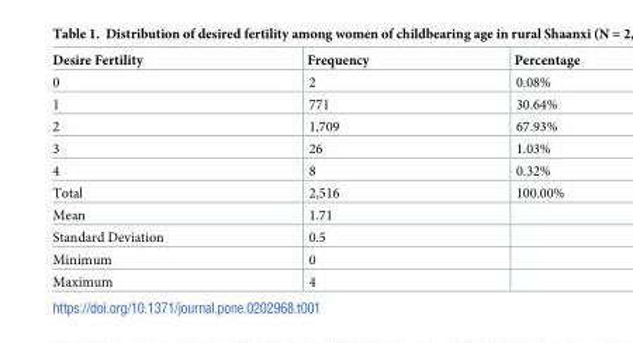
<table><thead><tr><td>Desire Fertility</td><td>Frequency</td><td>Percentage</td></tr></thead><tbody><tr><td>0</td><td>2</td><td>0.08%</td></tr><tr><td>1</td><td>771</td><td>30.64%</td></tr><tr><td>2</td><td>1,709</td><td>67.93%</td></tr><tr><td>3</td><td>26</td><td>1.03%</td></tr><tr><td>4</td><td>8</td><td>0.32%</td></tr><tr><td>Total</td><td>2,516</td><td>100.00%</td></tr><tr><td>Mean</td><td>1.71</td><td></td></tr><tr><td>Standard Deviation</td><td>0.5</td><td></td></tr><tr><td>Minimum</td><td>0</td><td></td></tr><tr><td>Maximum</td><td>4</td><td></td></tr></tbody></table>